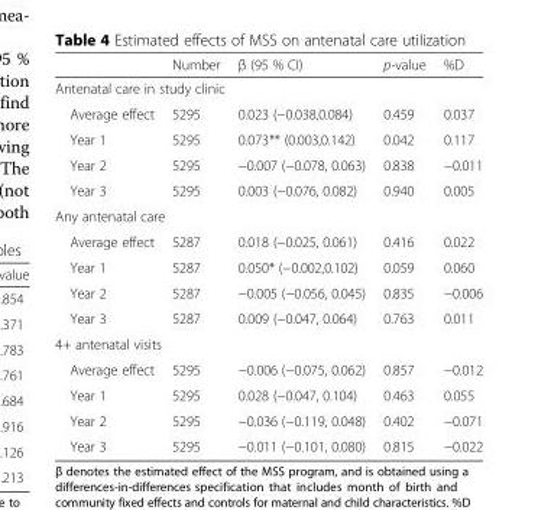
<table><thead><tr><td></td><td>Number</td><td>β (95 % CI)</td><td>p-value</td><td>%D</td></tr></thead><tbody><tr><td colspan="5">Antenatal care in study clinic</td></tr><tr><td>Average effect</td><td>5295</td><td>0.023 (−0.038,0.084)</td><td>0.459</td><td>0.037</td></tr><tr><td>Year 1</td><td>5295</td><td>0.073** (0.003,0.142)</td><td>0.042</td><td>0.117</td></tr><tr><td>Year 2</td><td>5295</td><td>−0.007 (−0.078, 0.063)</td><td>0.838</td><td>−0.011</td></tr><tr><td>Year 3</td><td>5295</td><td>0.003 (−0.076, 0.082)</td><td>0.940</td><td>0.005</td></tr><tr><td colspan="5">Any antenatal care</td></tr><tr><td>Average effect</td><td>5287</td><td>0.018 (−0.025, 0.061)</td><td>0.416</td><td>0.022</td></tr><tr><td>Year 1</td><td>5287</td><td>0.050* (−0.002,0.102)</td><td>0.059</td><td>0.060</td></tr><tr><td>Year 2</td><td>5287</td><td>−0.005 (−0.056, 0.045)</td><td>0.835</td><td>−0.006</td></tr><tr><td>Year 3</td><td>5287</td><td>0.009 (−0.047, 0.064)</td><td>0.763</td><td>0.011</td></tr><tr><td colspan="5">4+ antenatal visits</td></tr><tr><td>Average effect</td><td>5295</td><td>−0.006 (−0.075, 0.062)</td><td>0.857</td><td>−0.012</td></tr><tr><td>Year 1</td><td>5295</td><td>0.028 (−0.047, 0.104)</td><td>0.463</td><td>0.055</td></tr><tr><td>Year 2</td><td>5295</td><td>−0.036 (−0.119, 0.048)</td><td>0.402</td><td>−0.071</td></tr><tr><td>Year 3</td><td>5295</td><td>−0.011 (−0.101, 0.080)</td><td>0.815</td><td>−0.022</td></tr></tbody></table>